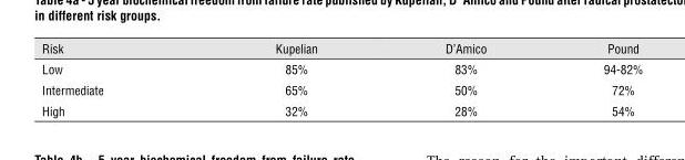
<table><thead><tr><td>Risk</td><td>Kupelian</td><td>D’Amico</td><td>Pound</td></tr></thead><tbody><tr><td>Low</td><td>85%</td><td>83%</td><td>94-82%</td></tr><tr><td>Intermediate</td><td>65%</td><td>50%</td><td>72%</td></tr><tr><td>High</td><td>32%</td><td>28%</td><td>54%</td></tr></tbody></table>